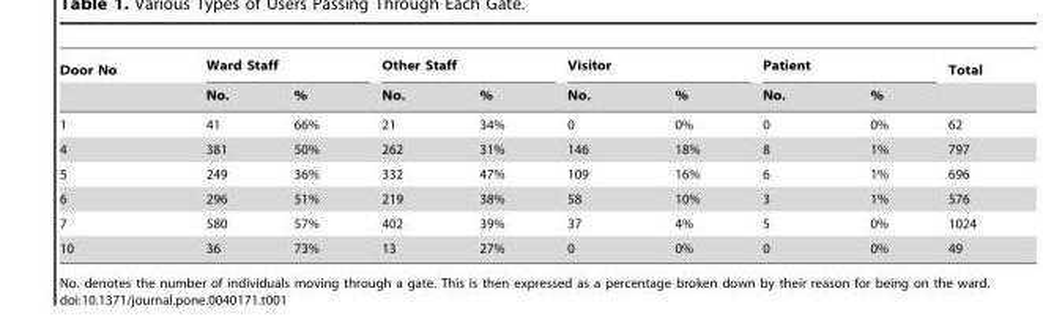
<table><thead><tr><td rowspan="2">Door No</td><td colspan="2">Ward Staff</td><td colspan="2">Other Staff</td><td colspan="2">Visitor</td><td colspan="2">Patient</td><td rowspan="2">Total</td></tr><tr><td>No.</td><td>%</td><td>No.</td><td>%</td><td>No.</td><td>%</td><td>No.</td><td>%</td></tr></thead><tbody><tr><td>1</td><td>41</td><td>66%</td><td>21</td><td>34%</td><td>0</td><td>0%</td><td>0</td><td>0%</td><td>62</td></tr><tr><td>4</td><td>381</td><td>50%</td><td>262</td><td>31%</td><td>146</td><td>18%</td><td>8</td><td>1%</td><td>797</td></tr><tr><td>5</td><td>249</td><td>36%</td><td>332</td><td>47%</td><td>109</td><td>16%</td><td>6</td><td>1%</td><td>696</td></tr><tr><td>6</td><td>296</td><td>51%</td><td>219</td><td>38%</td><td>58</td><td>10%</td><td>3</td><td>1%</td><td>576</td></tr><tr><td>7</td><td>580</td><td>57%</td><td>402</td><td>39%</td><td>37</td><td>4%</td><td>5</td><td>0%</td><td>1024</td></tr><tr><td>10</td><td>36</td><td>73%</td><td>13</td><td>27%</td><td>0</td><td>0%</td><td>0</td><td>0%</td><td>49</td></tr></tbody></table>